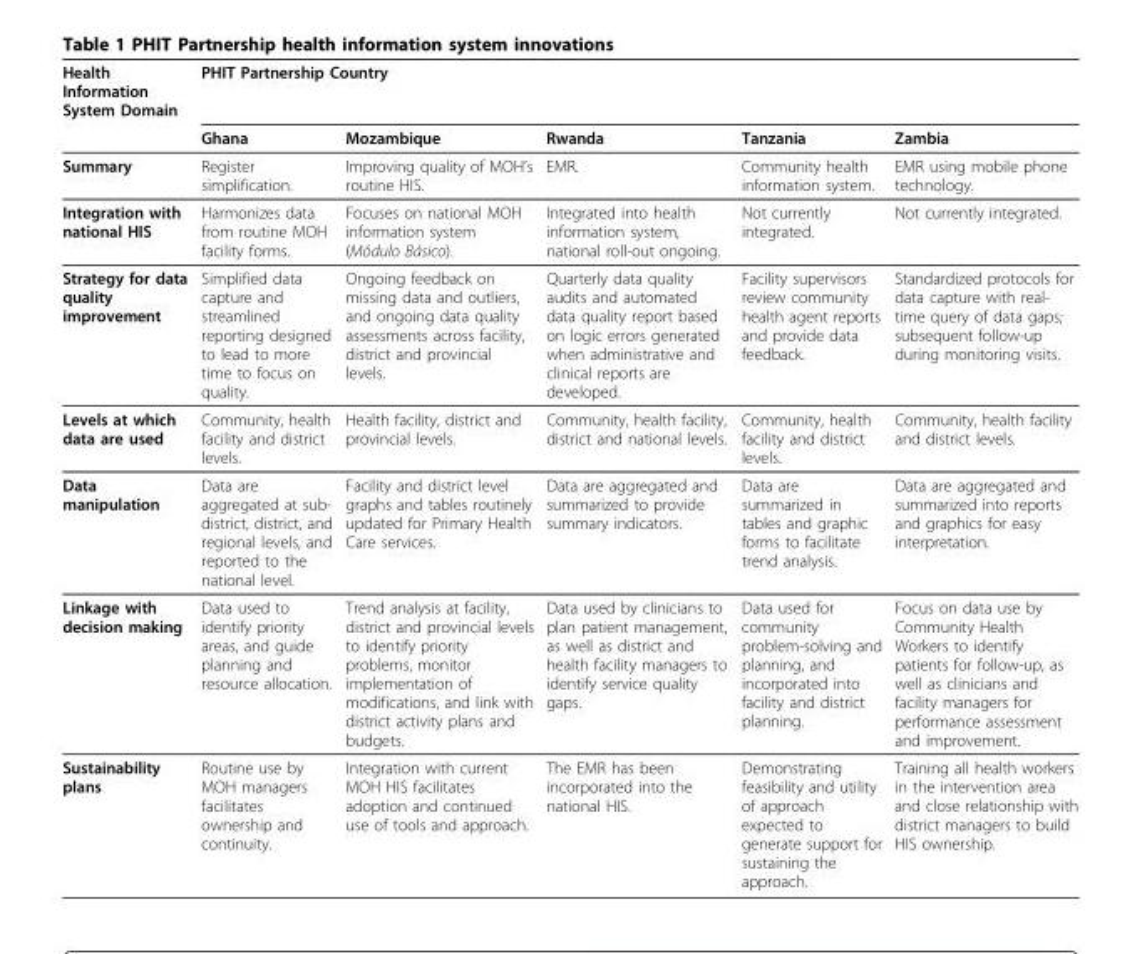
<table><thead><tr><td rowspan="2">Health Information System Domain</td><td colspan="5">PHIT Partnership Country</td></tr><tr><td>Ghana</td><td>Mozambique</td><td>Rwanda</td><td>Tanzania</td><td>Zambia</td></tr></thead><tbody><tr><td>Summary</td><td>Register simplification.</td><td>Improving quality of MOH’s routine HIS.</td><td>EMR.</td><td>Community health information system.</td><td>EMR using mobile phone technology.</td></tr><tr><td>Integration with national HIS</td><td>Harmonizes data from routine MOH facility forms.</td><td>Focuses on national MOH information system (Módulo Básico).</td><td>Integrated into health information system, national roll-out ongoing.</td><td>Not currently integrated.</td><td>Not currently integrated.</td></tr><tr><td>Strategy for data quality improvement</td><td>Simplified data capture and streamlined reporting designed to lead to more time to focus on quality.</td><td>Ongoing feedback on missing data and outliers, and ongoing data quality assessments across facility, district and provincial levels.</td><td>Quarterly data quality audits and automated data quality report based on logic errors generated when administrative and clinical reports are developed.</td><td>Facility supervisors review community health agent reports and provide data feedback.</td><td>Standardized protocols for data capture with real- time query of data gaps; subsequent follow-up during monitoring visits.</td></tr><tr><td>Levels at which data are used</td><td>Community, health facility and district levels.</td><td>Health facility, district and provincial levels.</td><td>Community, health facility, district and national levels.</td><td>Community, health facility and district levels.</td><td>Community, health facility and district levels.</td></tr><tr><td>Data manipulation</td><td>Data are aggregated at sub- district, district, and regional levels, and reported to the national level.</td><td>Facility and district level graphs and tables routinely updated for Primary Health Care services.</td><td>Data are aggregated and summarized to provide summary indicators.</td><td>Data are summarized in tables and graphic forms to facilitate trend analysis.</td><td>Data are aggregated and summarized into reports and graphics for easy interpretation.</td></tr><tr><td>Linkage with decision making</td><td>Data used to identify priority areas, and guide planning and resource allocation.</td><td>Trend analysis at facility, district and provincial levels to identify priority problems, monitor implementation of modifications, and link with district activity plans and budgets.</td><td>Data used by clinicians to plan patient management, as well as district and health facility managers to identify service quality gaps.</td><td>Data used for community problem-solving and planning, and incorporated into facility and district planning.</td><td>Focus on data use by Community Health Workers to identify patients for follow-up, as well as clinicians and facility managers for performance assessment and improvement.</td></tr><tr><td>Sustainability plans</td><td>Routine use by MOH managers facilitates ownership and continuity.</td><td>Integration with current MOH HIS facilitates adoption and continued use of tools and approach.</td><td>The EMR has been incorporated into the national HIS.</td><td>Demonstrating feasibility and utility of approach expected to generate support for sustaining the approach.</td><td>Training all health workers in the intervention area and close relationship with district managers to build HIS ownership.</td></tr></tbody></table>